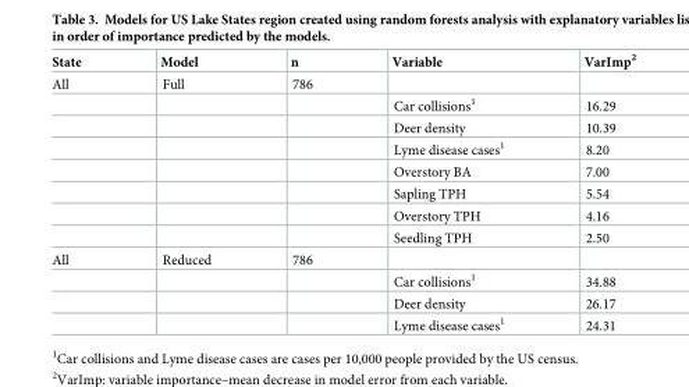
<table><thead><tr><td>State</td><td>Model</td><td>n</td><td>Variable</td><td>VarImp<sup>2</sup></td></tr></thead><tbody><tr><td rowspan="8">All</td><td>Full</td><td>786</td><td></td><td></td></tr><tr><td></td><td></td><td>Car collisions<sup>1</sup></td><td>16.29</td></tr><tr><td></td><td></td><td>Deer density</td><td>10.39</td></tr><tr><td></td><td></td><td>Lyme disease cases<sup>1</sup></td><td>8.20</td></tr><tr><td></td><td></td><td>Overstory BA</td><td>7.00</td></tr><tr><td></td><td></td><td>Sapling TPH</td><td>5.54</td></tr><tr><td></td><td></td><td>Overstory TPH</td><td>4.16</td></tr><tr><td></td><td></td><td>Seedling TPH</td><td>2.50</td></tr><tr><td rowspan="4">All</td><td>Reduced</td><td>786</td><td></td><td></td></tr><tr><td></td><td></td><td>Car collisions<sup>1</sup></td><td>34.88</td></tr><tr><td></td><td></td><td>Deer density</td><td>26.17</td></tr><tr><td></td><td></td><td>Lyme disease cases<sup>1</sup></td><td>24.31</td></tr></tbody></table>